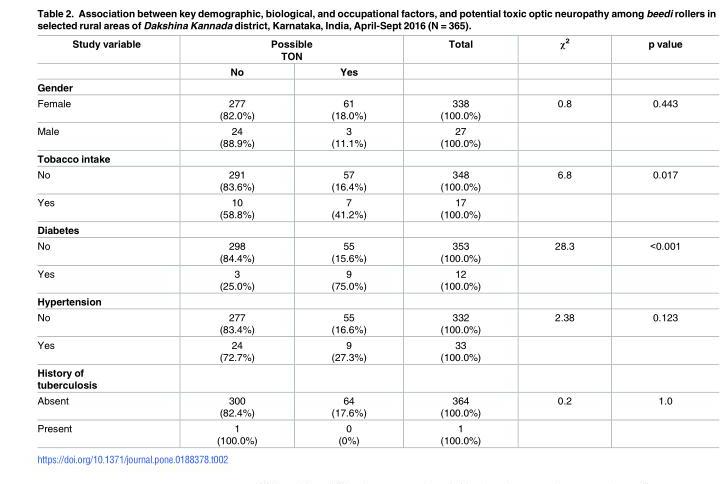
<table><thead><tr><td rowspan="2">Study variable</td><td colspan="2">Possible TON</td><td rowspan="2">Total</td><td rowspan="2">χ<sup>2</sup></td><td rowspan="2">p value</td></tr><tr><td>No</td><td>Yes</td></tr></thead><tbody><tr><td colspan="6">Gender</td></tr><tr><td>Female</td><td>277 (82.0%)</td><td>61 (18.0%)</td><td>338 (100.0%)</td><td>0.8</td><td>0.443</td></tr><tr><td>Male</td><td>24 (88.9%)</td><td>3 (11.1%)</td><td>27 (100.0%)</td><td></td><td></td></tr><tr><td colspan="6">Tobacco intake</td></tr><tr><td>No</td><td>291 (83.6%)</td><td>57 (16.4%)</td><td>348 (100.0%)</td><td>6.8</td><td>0.017</td></tr><tr><td>Yes</td><td>10 (58.8%)</td><td>7 (41.2%)</td><td>17 (100.0%)</td><td></td><td></td></tr><tr><td colspan="6">Diabetes</td></tr><tr><td>No</td><td>298 (84.4%)</td><td>55 (15.6%)</td><td>353 (100.0%)</td><td>28.3</td><td>&lt;0.001</td></tr><tr><td>Yes</td><td>3 (25.0%)</td><td>9 (75.0%)</td><td>12 (100.0%)</td><td></td><td></td></tr><tr><td colspan="6">Hypertension</td></tr><tr><td>No</td><td>277 (83.4%)</td><td>55 (16.6%)</td><td>332 (100.0%)</td><td>2.38</td><td>0.123</td></tr><tr><td>Yes</td><td>24 (72.7%)</td><td>9 (27.3%)</td><td>33 (100.0%)</td><td></td><td></td></tr><tr><td colspan="6">History of tuberculosis</td></tr><tr><td>Absent</td><td>300 (82.4%)</td><td>64 (17.6%)</td><td>364 (100.0%)</td><td>0.2</td><td>1.0</td></tr><tr><td>Present</td><td>1 (100.0%)</td><td>0 (0%)</td><td>1 (100.0%)</td><td></td><td></td></tr></tbody></table>